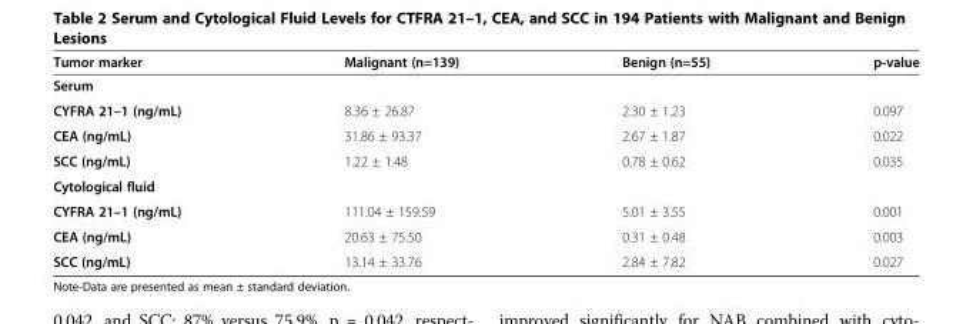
<table><thead><tr><td>Tumor marker</td><td>Malignant (n=139)</td><td>Benign (n=55)</td><td>p-value</td></tr></thead><tbody><tr><td colspan="4">Serum</td></tr><tr><td>CYFRA 21–1 (ng/mL)</td><td>8.36 ± 26.87</td><td>2.30 ± 1.23</td><td>0.097</td></tr><tr><td>CEA (ng/mL)</td><td>31.86 ± 93.37</td><td>2.67 ± 1.87</td><td>0.022</td></tr><tr><td>SCC (ng/mL)</td><td>1.22 ± 1.48</td><td>0.78 ± 0.62</td><td>0.035</td></tr><tr><td colspan="4">Cytological fluid</td></tr><tr><td>CYFRA 21–1 (ng/mL)</td><td>111.04 ± 159.59</td><td>5.01 ± 3.55</td><td>0.001</td></tr><tr><td>CEA (ng/mL)</td><td>20.63 ± 75.50</td><td>0.31 ± 0.48</td><td>0.003</td></tr><tr><td>SCC (ng/mL)</td><td>13.14 ± 33.76</td><td>2.84 ± 7.82</td><td>0.027</td></tr></tbody></table>